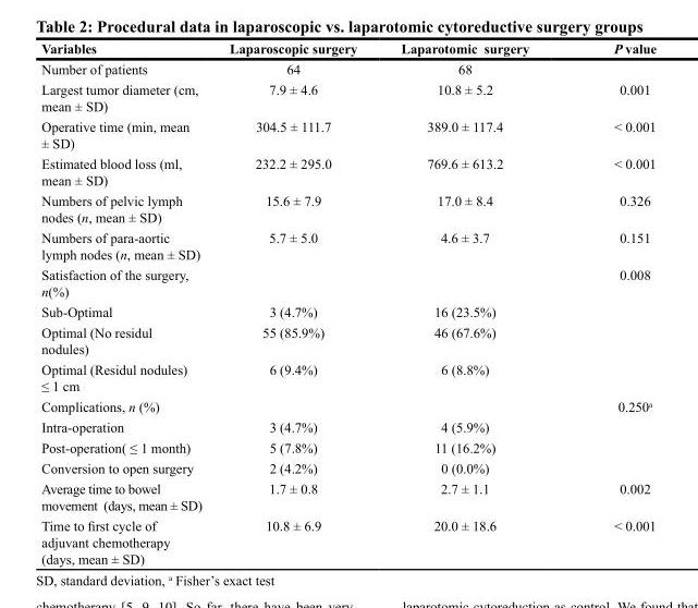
<table><thead><tr><td>Variables</td><td>Laparoscopic surgery</td><td>Laparotomic surgery</td><td>P value</td></tr></thead><tbody><tr><td>Number of patients</td><td>64</td><td>68</td><td></td></tr><tr><td>Largest tumor diameter (cm, mean ± SD)</td><td>7.9 ± 4.6</td><td>10.8 ± 5.2</td><td>0.001</td></tr><tr><td>Operative time (min, mean ± SD)</td><td>304.5 ± 111.7</td><td>389.0 ± 117.4</td><td>&lt; 0.001</td></tr><tr><td>Estimated blood loss (ml, mean ± SD)</td><td>232.2 ± 295.0</td><td>769.6 ± 613.2</td><td>&lt; 0.001</td></tr><tr><td>Numbers of pelvic lymph nodes (n, mean ± SD)</td><td>15.6 ± 7.9</td><td>17.0 ± 8.4</td><td>0.326</td></tr><tr><td>Numbers of para-aortic lymph nodes (n, mean ± SD)</td><td>5.7 ± 5.0</td><td>4.6 ± 3.7</td><td>0.151</td></tr><tr><td>Satisfaction of the surgery, n(%)</td><td></td><td></td><td>0.008</td></tr><tr><td>Sub-Optimal</td><td>3 (4.7%)</td><td>16 (23.5%)</td><td></td></tr><tr><td>Optimal (No residul nodules)</td><td>55 (85.9%)</td><td>46 (67.6%)</td><td></td></tr><tr><td>Optimal (Residul nodules) ≤ 1 cm</td><td>6 (9.4%)</td><td>6 (8.8%)</td><td></td></tr><tr><td>Complications, n (%)</td><td></td><td></td><td>0.250<sup>a</sup></td></tr><tr><td>Intra-operation</td><td>3 (4.7%)</td><td>4 (5.9%)</td><td></td></tr><tr><td>Post-operation( ≤ 1 month)</td><td>5 (7.8%)</td><td>11 (16.2%)</td><td></td></tr><tr><td>Conversion to open surgery</td><td>2 (4.2%)</td><td>0 (0.0%)</td><td></td></tr><tr><td>Average time to bowel movement (days, mean ± SD)</td><td>1.7 ± 0.8</td><td>2.7 ± 1.1</td><td>0.002</td></tr><tr><td>Time to first cycle of adjuvant chemotherapy (days, mean ± SD)</td><td>10.8 ± 6.9</td><td>20.0 ± 18.6</td><td>&lt; 0.001</td></tr></tbody></table>